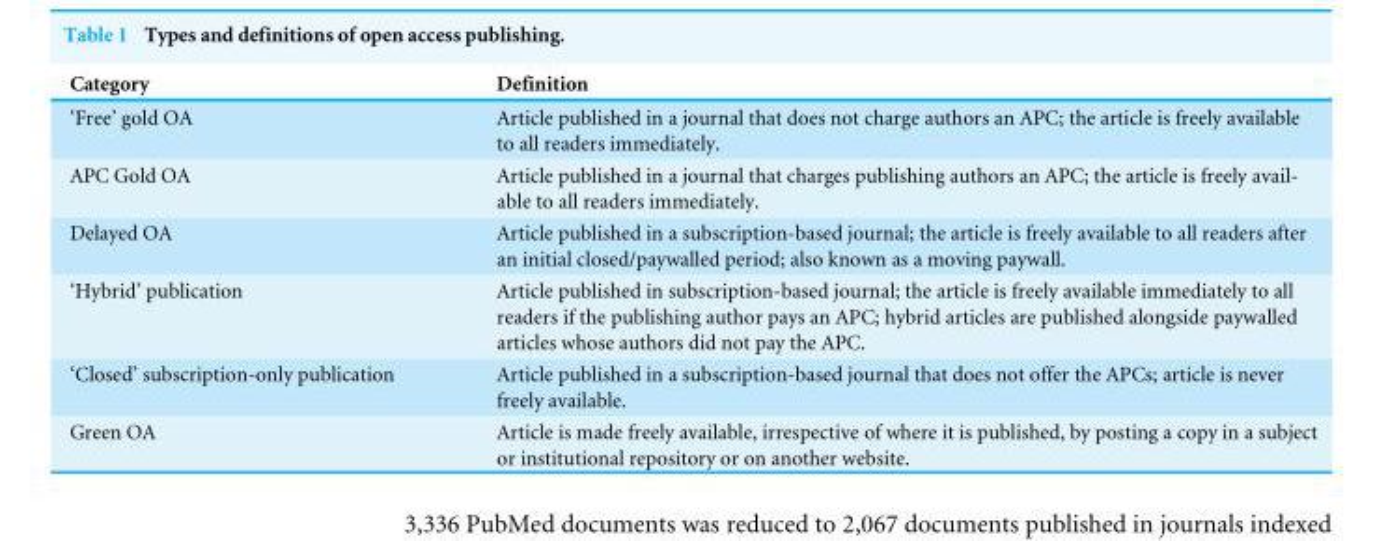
<table><thead><tr><td>Category</td><td>Definition</td></tr></thead><tbody><tr><td>‘Free’ gold OA</td><td>Article published in a journal that does not charge authors an APC; the article is freely available to all readers immediately.</td></tr><tr><td>APC Gold OA</td><td>Article published in a journal that charges publishing authors an APC; the article is freely avail- able to all readers immediately.</td></tr><tr><td>Delayed OA</td><td>Article published in a subscription-based journal; the article is freely available to all readers after an initial closed/paywalled period; also known as a moving paywall.</td></tr><tr><td>‘Hybrid’ publication</td><td>Article published in subscription-based journal; the article is freely available immediately to all readers if the publishing author pays an APC; hybrid articles are published alongside paywalled articles whose authors did not pay the APC.</td></tr><tr><td>‘Closed’ subscription-only publication</td><td>Article published in a subscription-based journal that does not offer the APCs; article is never freely available.</td></tr><tr><td>Green OA</td><td>Article is made freely available, irrespective of where it is published, by posting a copy in a subject or institutional repository or on another website.</td></tr></tbody></table>